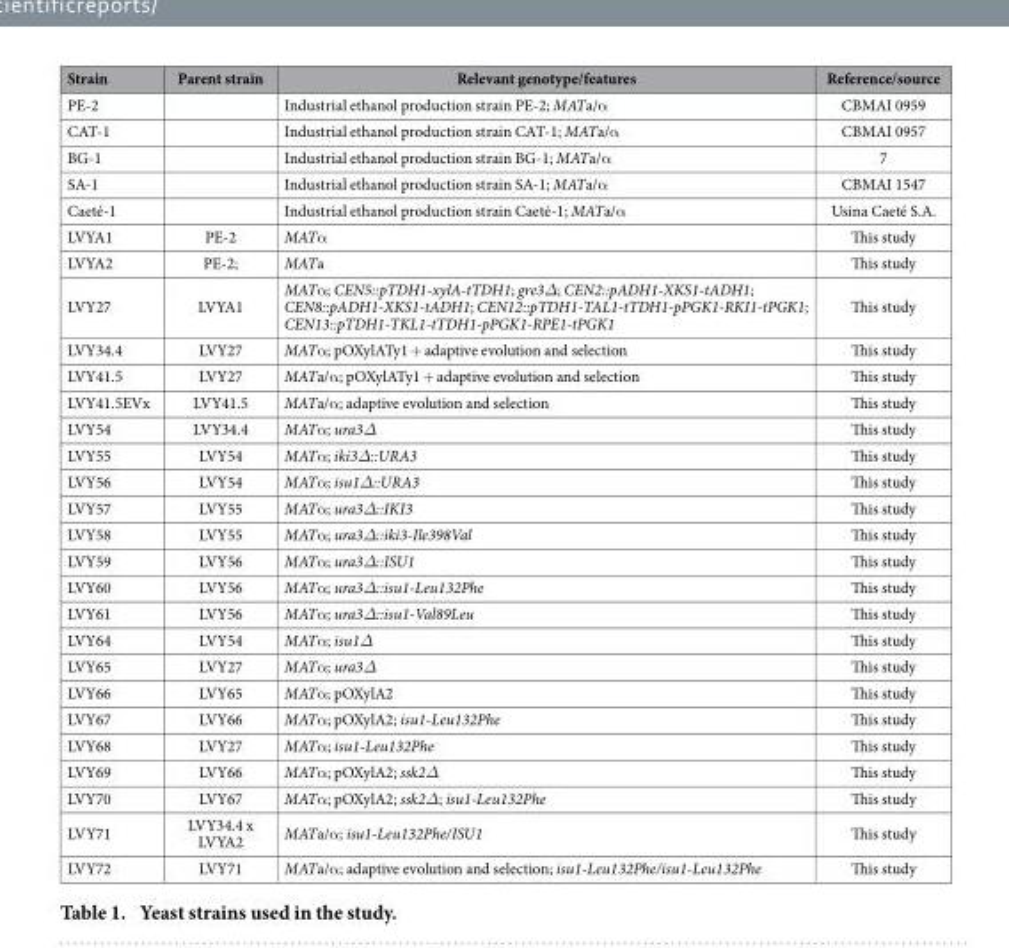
<table><thead><tr><td>Strain</td><td>Parent strain</td><td>Relevant genotype/features</td><td>Reference/source</td></tr></thead><tbody><tr><td>PE-2</td><td></td><td>Industrial ethanol production strain PE-2; MATa/α</td><td>CBMAI 0959</td></tr><tr><td>CAT-1</td><td></td><td>Industrial ethanol production strain CAT-1; MATa/α</td><td>CBMAI 0957</td></tr><tr><td>BG-1</td><td></td><td>Industrial ethanol production strain BG-1; MATa/α</td><td>7</td></tr><tr><td>SA-1</td><td></td><td>Industrial ethanol production strain SA-1; MATa/α</td><td>CBMAI 1547</td></tr><tr><td>Caeté-1</td><td></td><td>Industrial ethanol production strain Caeté-1; MATa/α</td><td>Usina Caeté S.A.</td></tr><tr><td>LVYA1</td><td>PE-2</td><td>MATα</td><td>This study</td></tr><tr><td>LVYA2</td><td>PE-2;</td><td>MATa</td><td>This study</td></tr><tr><td>LVY27</td><td>LVYA1</td><td>MATα ; CEN5::pTDH1-xylA-tTDH1; gre3Δ; CEN2::pADH1-XKS1-tADH1; CEN8::pADH1-XKS1-tADH1; CEN12::pTDH1-TAL1-tTDH1-pPGK1-RKI1-tPGK1; CEN13::pTDH1-TKL1-tTDH1-pPGK1-RPE1-tPGK1</td><td>This study</td></tr><tr><td>LVY34.4</td><td>LVY27</td><td>MATα ; pOXylATy1 + adaptive evolution and selection</td><td>This study</td></tr><tr><td>LVY41.5</td><td>LVY27</td><td>MATa/α ; pOXylATy1 + adaptive evolution and selection</td><td>This study</td></tr><tr><td>LVY41.5EVx</td><td>LVY41.5</td><td>MATa/α ; adaptive evolution and selection</td><td>This study</td></tr><tr><td>LVY54</td><td>LVY34.4</td><td>MATα ; ura3Δ</td><td>This study</td></tr><tr><td>LVY55</td><td>LVY54</td><td>MATα ; iki3Δ::URA3</td><td>This study</td></tr><tr><td>LVY56</td><td>LVY54</td><td>MATα ; isu1Δ::URA3</td><td>This study</td></tr><tr><td>LVY57</td><td>LVY55</td><td>MATα ; ura3Δ::IKI3</td><td>This study</td></tr><tr><td>LVY58</td><td>LVY55</td><td>MATα ; ura3Δ::iki3-Ile398Val</td><td>This study</td></tr><tr><td>LVY59</td><td>LVY56</td><td>MATα ; ura3Δ::ISU1</td><td>This study</td></tr><tr><td>LVY60</td><td>LVY56</td><td>MATα ; ura3Δ::isu1-Leu132Phe</td><td>This study</td></tr><tr><td>LVY61</td><td>LVY56</td><td>MATα ; ura3Δ::isu1-Val89Leu</td><td>This study</td></tr><tr><td>LVY64</td><td>LVY54</td><td>MATα ; isu1Δ</td><td>This study</td></tr><tr><td>LVY65</td><td>LVY27</td><td>MATα ; ura3Δ</td><td>This study</td></tr><tr><td>LVY66</td><td>LVY65</td><td>MATα ; pOXylA2</td><td>This study</td></tr><tr><td>LVY67</td><td>LVY66</td><td>MATα ; pOXylA2; isu1-Leu132Phe</td><td>This study</td></tr><tr><td>LVY68</td><td>LVY27</td><td>MATα ; isu1-Leu132Phe</td><td>This study</td></tr><tr><td>LVY69</td><td>LVY66</td><td>MATα ; pOXylA2; ssk2Δ</td><td>This study</td></tr><tr><td>LVY70</td><td>LVY67</td><td>MATα ; pOXylA2; ssk2Δ; isu1-Leu132Phe</td><td>This study</td></tr><tr><td>LVY71</td><td>LVY34.4 x LVYA2</td><td>MATa/α ; isu1-Leu132Phe/ISU1</td><td>This study</td></tr><tr><td>LVY72</td><td>LVY71</td><td>MATa/α ; adaptive evolution and selection; isu1-Leu132Phe/isu1-Leu132Phe</td><td>This study</td></tr></tbody></table>